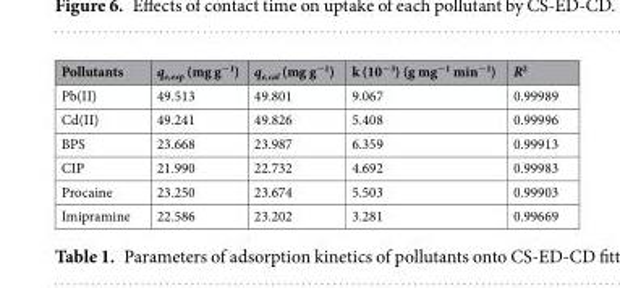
<table><thead><tr><td>Pollutants</td><td>q<sub>e,exp</sub> (mg g<sup>−1</sup>)</td><td>q<sub>e,cal</sub> (mg g<sup>−1</sup>)</td><td>k (10<sup>−3</sup>) (g mg<sup>−1</sup> min<sup>−1</sup>)</td><td>R<sup>2</sup></td></tr></thead><tbody><tr><td>Pb(II)</td><td>49.513</td><td>49.801</td><td>9.067</td><td>0.99989</td></tr><tr><td>Cd(II)</td><td>49.241</td><td>49.826</td><td>5.408</td><td>0.99996</td></tr><tr><td>BPS</td><td>23.668</td><td>23.987</td><td>6.359</td><td>0.99913</td></tr><tr><td>CIP</td><td>21.990</td><td>22.732</td><td>4.692</td><td>0.99983</td></tr><tr><td>Procaine</td><td>23.250</td><td>23.674</td><td>5.503</td><td>0.99903</td></tr><tr><td>Imipramine</td><td>22.586</td><td>23.202</td><td>3.281</td><td>0.99669</td></tr></tbody></table>